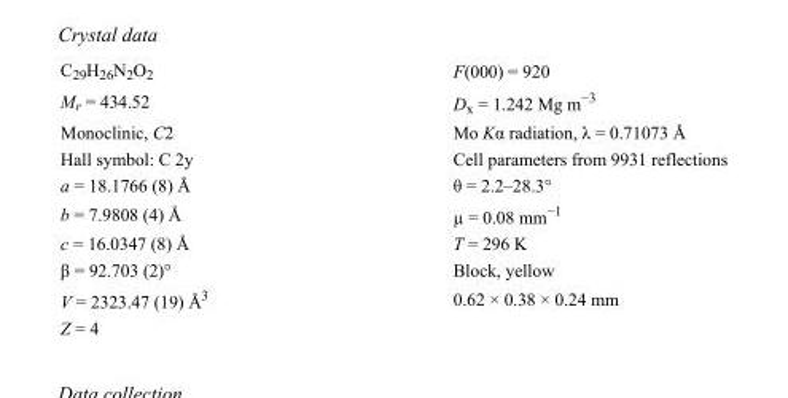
<table><tbody><tr><td>C<sub>29</sub>H<sub>26</sub>N<sub>2</sub>O<sub>2</sub></td><td>F(000) = 920</td></tr><tr><td>M<sub>r</sub> = 434.52</td><td>D<sub>x</sub> = 1.242 Mg m<sup>−3</sup></td></tr><tr><td>Monoclinic, C2</td><td>Mo Kα radiation, λ = 0.71073 Å</td></tr><tr><td>Hall symbol: C 2y</td><td>Cell parameters from 9931 reflections</td></tr><tr><td>a = 18.1766 (8) Å</td><td>θ = 2.2–28.3°</td></tr><tr><td>b = 7.9808 (4) Å</td><td>µ = 0.08 mm<sup>−1</sup></td></tr><tr><td>c = 16.0347 (8) Å</td><td>T = 296 K</td></tr><tr><td>β = 92.703 (2)°</td><td>Block, yellow</td></tr><tr><td>V = 2323.47 (19) Å<sup>3</sup></td><td>0.62 × 0.38 × 0.24 mm</td></tr><tr><td>Z = 4</td><td></td></tr></tbody></table>